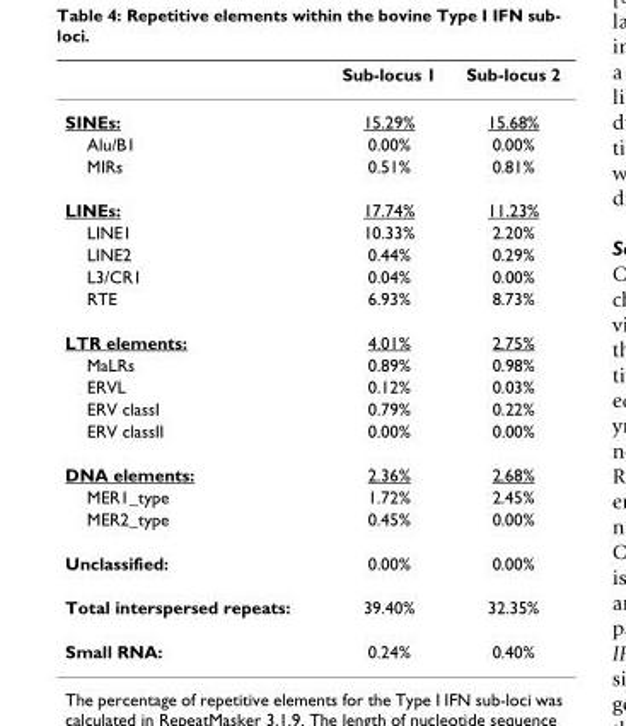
<table><thead><tr><td></td><td>Sub-locus 1</td><td>Sub-locus 2</td></tr></thead><tbody><tr><td>SINEs:</td><td>15.29%</td><td>15.68%</td></tr><tr><td>Alu/B1</td><td>0.00%</td><td>0.00%</td></tr><tr><td>MIRs</td><td>0.51%</td><td>0.81%</td></tr><tr><td>LINEs:</td><td>17.74%</td><td>11.23%</td></tr><tr><td>LINE1</td><td>10.33%</td><td>2.20%</td></tr><tr><td>LINE2</td><td>0.44%</td><td>0.29%</td></tr><tr><td>L3/CR1</td><td>0.04%</td><td>0.00%</td></tr><tr><td>RTE</td><td>6.93%</td><td>8.73%</td></tr><tr><td>LTR elements:</td><td>4.01%</td><td>2.75%</td></tr><tr><td>MaLRs</td><td>0.89%</td><td>0.98%</td></tr><tr><td>ERVL</td><td>0.12%</td><td>0.03%</td></tr><tr><td>ERV classI</td><td>0.79%</td><td>0.22%</td></tr><tr><td>ERV classII</td><td>0.00%</td><td>0.00%</td></tr><tr><td>DNA elements:</td><td>2.36%</td><td>2.68%</td></tr><tr><td>MER1_type</td><td>1.72%</td><td>2.45%</td></tr><tr><td>MER2_type</td><td>0.45%</td><td>0.00%</td></tr><tr><td>Unclassified:</td><td>0.00%</td><td>0.00%</td></tr><tr><td>Total interspersed repeats:</td><td>39.40%</td><td>32.35%</td></tr><tr><td>Small RNA:</td><td>0.24%</td><td>0.40%</td></tr></tbody></table>